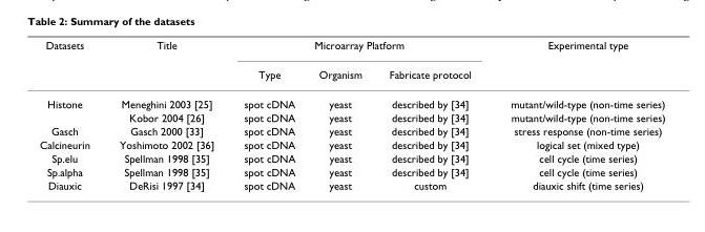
<table><thead><tr><td rowspan="2">Datasets</td><td rowspan="2">Title</td><td colspan="3">Microarray Platform</td><td rowspan="2">Experimental type</td></tr><tr><td>Type</td><td>Organism</td><td>Fabricate protocol</td></tr></thead><tbody><tr><td rowspan="2">Histone</td><td>Meneghini 2003 [25]</td><td>spot cDNA</td><td>yeast</td><td>described by [34]</td><td>mutant/wild-type (non-time series)</td></tr><tr><td>Kobor 2004 [26]</td><td>spot cDNA</td><td>yeast</td><td>described by [34]</td><td>mutant/wild-type (non-time series)</td></tr><tr><td>Gasch</td><td>Gasch 2000 [33]</td><td>spot cDNA</td><td>yeast</td><td>described by [34]</td><td>stress response (non-time series)</td></tr><tr><td>Calcineurin</td><td>Yoshimoto 2002 [36]</td><td>spot cDNA</td><td>yeast</td><td>described by [34]</td><td>logical set (mixed type)</td></tr><tr><td>Sp.elu</td><td>Spellman 1998 [35]</td><td>spot cDNA</td><td>yeast</td><td>described by [34]</td><td>cell cycle (time series)</td></tr><tr><td>Sp.alpha</td><td>Spellman 1998 [35]</td><td>spot cDNA</td><td>yeast</td><td>described by [34]</td><td>cell cycle (time series)</td></tr><tr><td>Diauxic</td><td>DeRisi 1997 [34]</td><td>spot cDNA</td><td>yeast</td><td>custom</td><td>diauxic shift (time series)</td></tr></tbody></table>